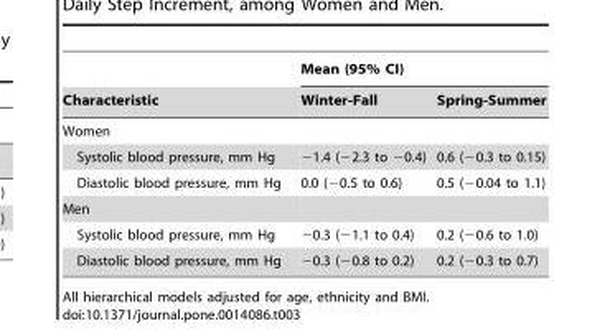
<table><thead><tr><td rowspan="2">Characteristic</td><td colspan="2">Mean (95% CI)</td></tr><tr><td>Winter-Fall</td><td>Spring-Summer</td></tr></thead><tbody><tr><td colspan="3">Women</td></tr><tr><td>Systolic blood pressure, mm Hg</td><td>−1.4 (−2.3 to −0.4)</td><td>0.6 (−0.3 to 0.15)</td></tr><tr><td>Diastolic blood pressure, mm Hg</td><td>0.0 (−0.5 to 0.6)</td><td>0.5 (−0.04 to 1.1)</td></tr><tr><td colspan="3">Men</td></tr><tr><td>Systolic blood pressure, mm Hg</td><td>−0.3 (−1.1 to 0.4)</td><td>0.2 (−0.6 to 1.0)</td></tr><tr><td>Diastolic blood pressure, mm Hg</td><td>−0.3 (−0.8 to 0.2)</td><td>0.2 (−0.3 to 0.7)</td></tr></tbody></table>